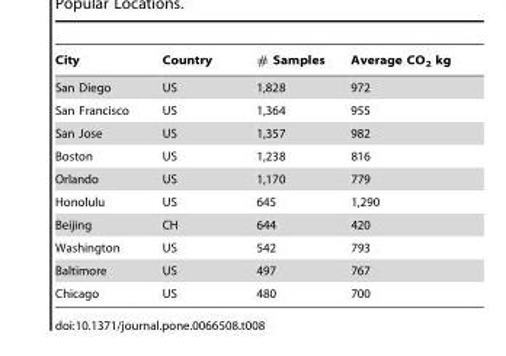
<table><thead><tr><td>City</td><td>Country</td><td># Samples</td><td>Average CO<sub>2</sub> kg</td></tr></thead><tbody><tr><td>San Diego</td><td>US</td><td>1,828</td><td>972</td></tr><tr><td>San Francisco</td><td>US</td><td>1,364</td><td>955</td></tr><tr><td>San Jose</td><td>US</td><td>1,357</td><td>982</td></tr><tr><td>Boston</td><td>US</td><td>1,238</td><td>816</td></tr><tr><td>Orlando</td><td>US</td><td>1,170</td><td>779</td></tr><tr><td>Honolulu</td><td>US</td><td>645</td><td>1,290</td></tr><tr><td>Beijing</td><td>CH</td><td>644</td><td>420</td></tr><tr><td>Washington</td><td>US</td><td>542</td><td>793</td></tr><tr><td>Baltimore</td><td>US</td><td>497</td><td>767</td></tr><tr><td>Chicago</td><td>US</td><td>480</td><td>700</td></tr></tbody></table>